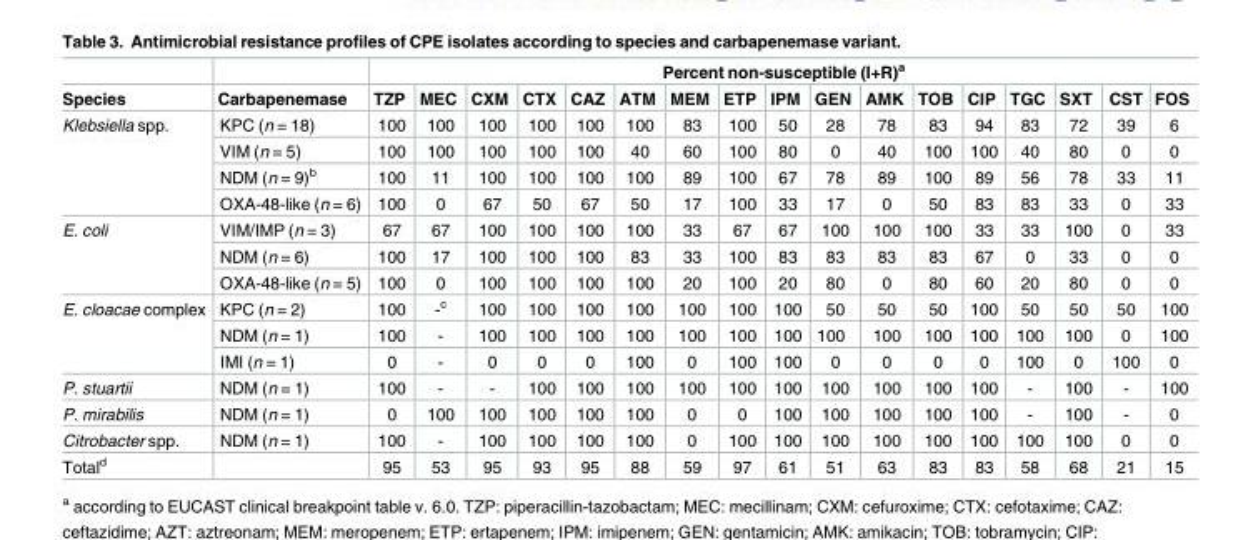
<table><thead><tr><td rowspan="2">Species</td><td rowspan="2">Carbapenemase</td><td colspan="17">Percent non-susceptible (I+R)<sup>a</sup></td></tr><tr><td>TZP</td><td>MEC</td><td>CXM</td><td>CTX</td><td>CAZ</td><td>ATM</td><td>MEM</td><td>ETP</td><td>IPM</td><td>GEN</td><td>AMK</td><td>TOB</td><td>CIP</td><td>TGC</td><td>SXT</td><td>CST</td><td>FOS</td></tr></thead><tbody><tr><td rowspan="4">Klebsiella spp.</td><td>KPC (n = 18)</td><td>100</td><td>100</td><td>100</td><td>100</td><td>100</td><td>100</td><td>83</td><td>100</td><td>50</td><td>28</td><td>78</td><td>83</td><td>94</td><td>83</td><td>72</td><td>39</td><td>6</td></tr><tr><td>VIM (n = 5)</td><td>100</td><td>100</td><td>100</td><td>100</td><td>100</td><td>40</td><td>60</td><td>100</td><td>80</td><td>0</td><td>40</td><td>100</td><td>100</td><td>40</td><td>80</td><td>0</td><td>0</td></tr><tr><td>NDM (n = 9)<sup>b</sup></td><td>100</td><td>11</td><td>100</td><td>100</td><td>100</td><td>100</td><td>89</td><td>100</td><td>67</td><td>78</td><td>89</td><td>100</td><td>89</td><td>56</td><td>78</td><td>33</td><td>11</td></tr><tr><td>OXA-48-like (n = 6)</td><td>100</td><td>0</td><td>67</td><td>50</td><td>67</td><td>50</td><td>17</td><td>100</td><td>33</td><td>17</td><td>0</td><td>50</td><td>83</td><td>83</td><td>33</td><td>0</td><td>33</td></tr><tr><td rowspan="3">E. coli</td><td>VIM/IMP (n = 3)</td><td>67</td><td>67</td><td>100</td><td>100</td><td>100</td><td>100</td><td>33</td><td>67</td><td>67</td><td>100</td><td>100</td><td>100</td><td>33</td><td>33</td><td>100</td><td>0</td><td>33</td></tr><tr><td>NDM (n = 6)</td><td>100</td><td>17</td><td>100</td><td>100</td><td>100</td><td>83</td><td>33</td><td>100</td><td>83</td><td>83</td><td>83</td><td>83</td><td>67</td><td>0</td><td>33</td><td>0</td><td>0</td></tr><tr><td>OXA-48-like (n = 5)</td><td>100</td><td>0</td><td>100</td><td>100</td><td>100</td><td>100</td><td>20</td><td>100</td><td>20</td><td>80</td><td>0</td><td>80</td><td>60</td><td>20</td><td>80</td><td>0</td><td>0</td></tr><tr><td rowspan="3">E. cloacae complex</td><td>KPC (n = 2)</td><td>100</td><td>-<sup>c</sup></td><td>100</td><td>100</td><td>100</td><td>100</td><td>100</td><td>100</td><td>100</td><td>50</td><td>50</td><td>50</td><td>100</td><td>50</td><td>50</td><td>50</td><td>100</td></tr><tr><td>NDM (n = 1)</td><td>100</td><td>-</td><td>100</td><td>100</td><td>100</td><td>100</td><td>100</td><td>100</td><td>100</td><td>100</td><td>100</td><td>100</td><td>100</td><td>100</td><td>100</td><td>0</td><td>100</td></tr><tr><td>IMI (n = 1)</td><td>0</td><td>-</td><td>0</td><td>0</td><td>0</td><td>100</td><td>0</td><td>100</td><td>100</td><td>0</td><td>0</td><td>0</td><td>0</td><td>100</td><td>0</td><td>100</td><td>0</td></tr><tr><td>P. stuartii</td><td>NDM (n = 1)</td><td>100</td><td>-</td><td>-</td><td>100</td><td>100</td><td>100</td><td>100</td><td>100</td><td>100</td><td>100</td><td>100</td><td>100</td><td>100</td><td>-</td><td>100</td><td>-</td><td>100</td></tr><tr><td>P. mirabilis</td><td>NDM (n = 1)</td><td>0</td><td>100</td><td>100</td><td>100</td><td>100</td><td>100</td><td>0</td><td>0</td><td>100</td><td>100</td><td>100</td><td>100</td><td>100</td><td>-</td><td>100</td><td>-</td><td>0</td></tr><tr><td>Citrobacter spp.</td><td>NDM (n = 1)</td><td>100</td><td>-</td><td>100</td><td>100</td><td>100</td><td>100</td><td>0</td><td>100</td><td>100</td><td>100</td><td>100</td><td>100</td><td>100</td><td>100</td><td>100</td><td>0</td><td>0</td></tr><tr><td>Total<sup>d</sup></td><td></td><td>95</td><td>53</td><td>95</td><td>93</td><td>95</td><td>88</td><td>59</td><td>97</td><td>61</td><td>51</td><td>63</td><td>83</td><td>83</td><td>58</td><td>68</td><td>21</td><td>15</td></tr></tbody></table>